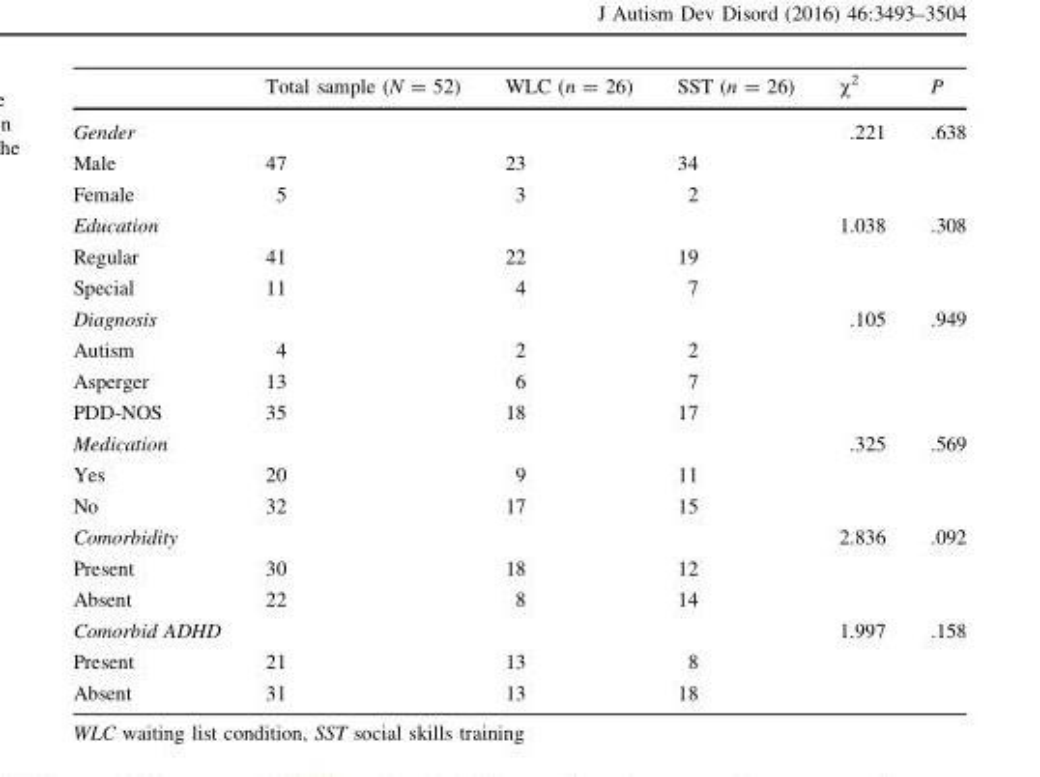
<table><thead><tr><td></td><td>Total sample (N = 52)</td><td>WLC (n = 26)</td><td>SST (n = 26)</td><td>χ<sup>2</sup></td><td>P</td></tr></thead><tbody><tr><td>Gender</td><td></td><td></td><td></td><td>.221</td><td>.638</td></tr><tr><td>Male</td><td>47</td><td>23</td><td>34</td><td></td><td></td></tr><tr><td>Female</td><td>5</td><td>3</td><td>2</td><td></td><td></td></tr><tr><td>Education</td><td></td><td></td><td></td><td>1.038</td><td>.308</td></tr><tr><td>Regular</td><td>41</td><td>22</td><td>19</td><td></td><td></td></tr><tr><td>Special</td><td>11</td><td>4</td><td>7</td><td></td><td></td></tr><tr><td>Diagnosis</td><td></td><td></td><td></td><td>.105</td><td>.949</td></tr><tr><td>Autism</td><td>4</td><td>2</td><td>2</td><td></td><td></td></tr><tr><td>Asperger</td><td>13</td><td>6</td><td>7</td><td></td><td></td></tr><tr><td>PDD-NOS</td><td>35</td><td>18</td><td>17</td><td></td><td></td></tr><tr><td>Medication</td><td></td><td></td><td></td><td>.325</td><td>.569</td></tr><tr><td>Yes</td><td>20</td><td>9</td><td>11</td><td></td><td></td></tr><tr><td>No</td><td>32</td><td>17</td><td>15</td><td></td><td></td></tr><tr><td>Comorbidity</td><td></td><td></td><td></td><td>2.836</td><td>.092</td></tr><tr><td>Present</td><td>30</td><td>18</td><td>12</td><td></td><td></td></tr><tr><td>Absent</td><td>22</td><td>8</td><td>14</td><td></td><td></td></tr><tr><td>Comorbid ADHD</td><td></td><td></td><td></td><td>1.997</td><td>.158</td></tr><tr><td>Present</td><td>21</td><td>13</td><td>8</td><td></td><td></td></tr><tr><td>Absent</td><td>31</td><td>13</td><td>18</td><td></td><td></td></tr></tbody></table>